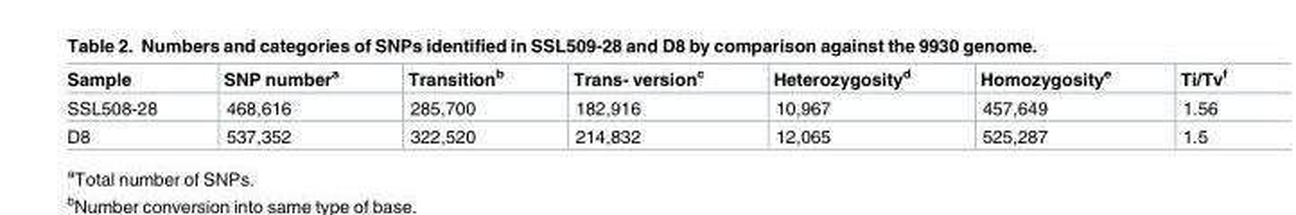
<table><thead><tr><td>Sample</td><td>SNP number<sup>a</sup></td><td>Transition<sup>b</sup></td><td>Trans- version<sup>c</sup></td><td>Heterozygosity<sup>d</sup></td><td>Homozygosity<sup>e</sup></td><td>Ti/Tv<sup>f</sup></td></tr></thead><tbody><tr><td>SSL508-28</td><td>468,616</td><td>285,700</td><td>182,916</td><td>10,967</td><td>457,649</td><td>1.56</td></tr><tr><td>D8</td><td>537,352</td><td>322,520</td><td>214,832</td><td>12,065</td><td>525,287</td><td>1.5</td></tr></tbody></table>